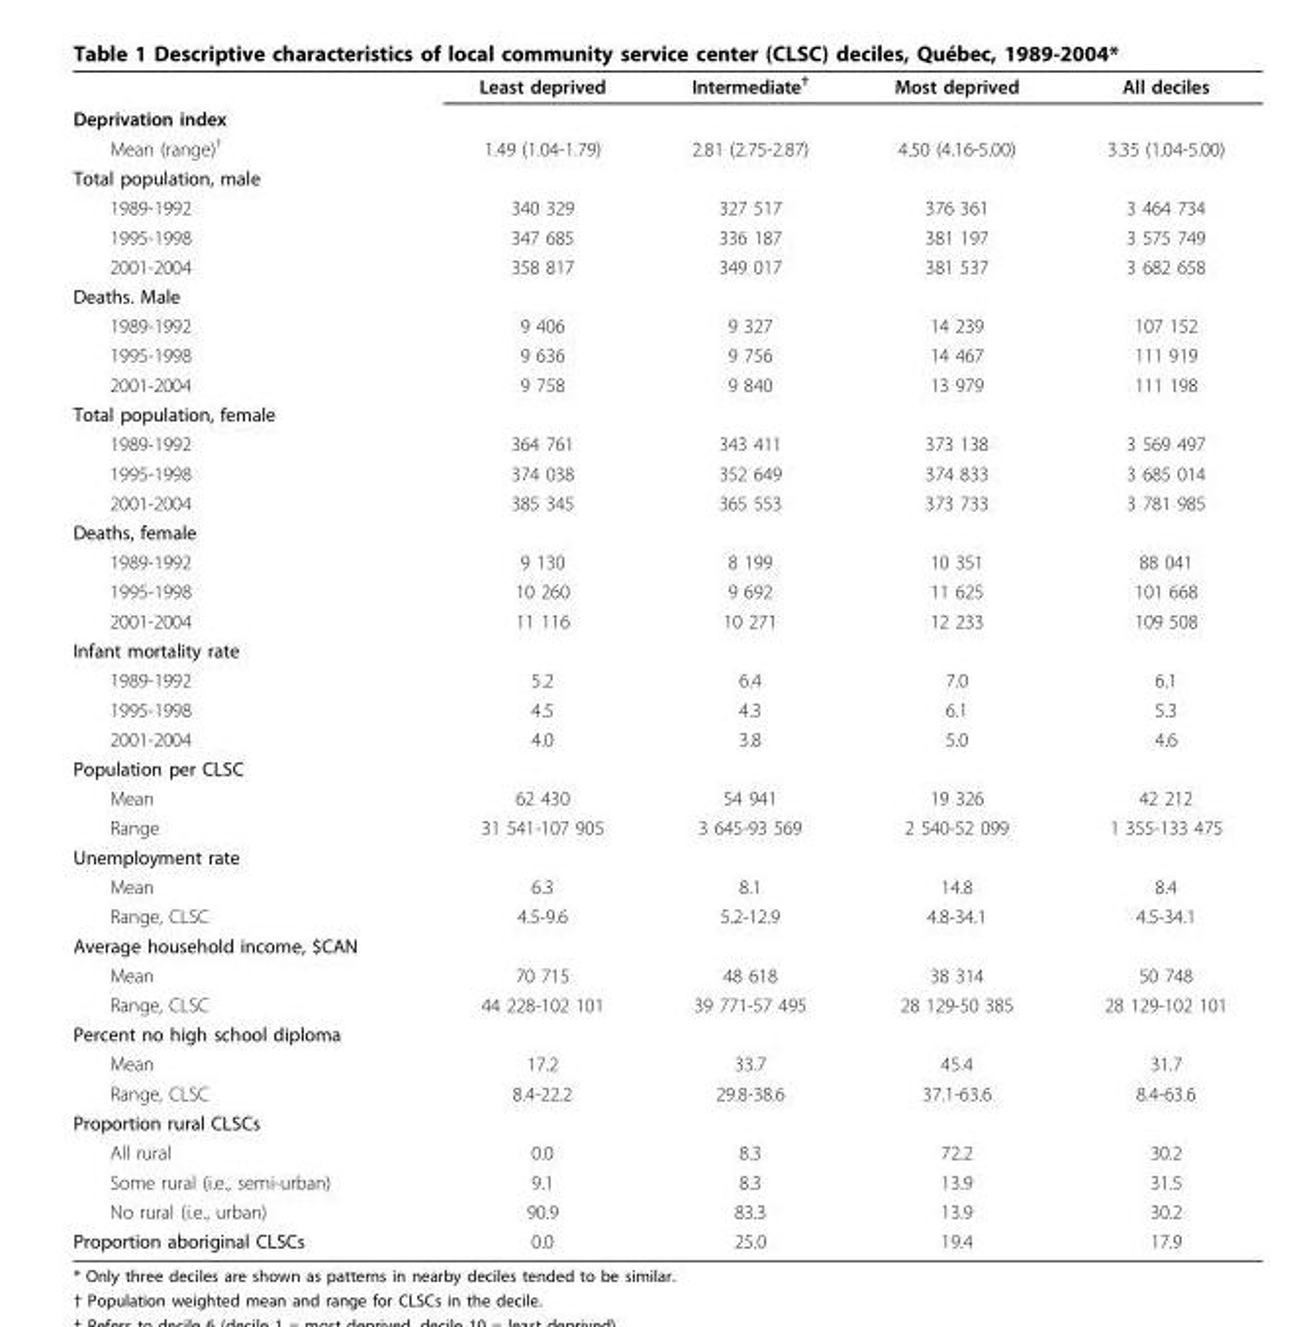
<table><thead><tr><td></td><td>Least deprived</td><td>Intermediate<sup>†</sup></td><td>Most deprived</td><td>All deciles</td></tr></thead><tbody><tr><td colspan="5">Deprivation index</td></tr><tr><td>Mean (range)<sup>†</sup></td><td>1.49 (1.04-1.79)</td><td>2.81 (2.75-2.87)</td><td>4.50 (4.16-5.00)</td><td>3.35 (1.04-5.00)</td></tr><tr><td colspan="5">Total population, male</td></tr><tr><td>1989-1992</td><td>340 329</td><td>327 517</td><td>376 361</td><td>3 464 734</td></tr><tr><td>1995-1998</td><td>347 685</td><td>336 187</td><td>381 197</td><td>3 575 749</td></tr><tr><td>2001-2004</td><td>358 817</td><td>349 017</td><td>381 537</td><td>3 682 658</td></tr><tr><td colspan="5">Deaths. Male</td></tr><tr><td>1989-1992</td><td>9 406</td><td>9 327</td><td>14 239</td><td>107 152</td></tr><tr><td>1995-1998</td><td>9 636</td><td>9 756</td><td>14 467</td><td>111 919</td></tr><tr><td>2001-2004</td><td>9 758</td><td>9 840</td><td>13 979</td><td>111 198</td></tr><tr><td colspan="5">Total population, female</td></tr><tr><td>1989-1992</td><td>364 761</td><td>343 411</td><td>373 138</td><td>3 569 497</td></tr><tr><td>1995-1998</td><td>374 038</td><td>352 649</td><td>374 833</td><td>3 685 014</td></tr><tr><td>2001-2004</td><td>385 345</td><td>365 553</td><td>373 733</td><td>3 781 985</td></tr><tr><td colspan="5">Deaths, female</td></tr><tr><td>1989-1992</td><td>9 130</td><td>8 199</td><td>10 351</td><td>88 041</td></tr><tr><td>1995-1998</td><td>10 260</td><td>9 692</td><td>11 625</td><td>101 668</td></tr><tr><td>2001-2004</td><td>11 116</td><td>10 271</td><td>12 233</td><td>109 508</td></tr><tr><td colspan="5">Infant mortality rate</td></tr><tr><td>1989-1992</td><td>5.2</td><td>6.4</td><td>7.0</td><td>6.1</td></tr><tr><td>1995-1998</td><td>4.5</td><td>4.3</td><td>6.1</td><td>5.3</td></tr><tr><td>2001-2004</td><td>4.0</td><td>3.8</td><td>5.0</td><td>4.6</td></tr><tr><td colspan="5">Population per CLSC</td></tr><tr><td>Mean</td><td>62 430</td><td>54 941</td><td>19 326</td><td>42 212</td></tr><tr><td>Range</td><td>31 541-107 905</td><td>3 645-93 569</td><td>2 540-52 099</td><td>1 355-133 475</td></tr><tr><td colspan="5">Unemployment rate</td></tr><tr><td>Mean</td><td>6.3</td><td>8.1</td><td>14.8</td><td>8.4</td></tr><tr><td>Range, CLSC</td><td>4.5-9.6</td><td>5.2-12.9</td><td>4.8-34.1</td><td>4.5-34.1</td></tr><tr><td colspan="5">Average household income, $CAN</td></tr><tr><td>Mean</td><td>70 715</td><td>48 618</td><td>38 314</td><td>50 748</td></tr><tr><td>Range, CLSC</td><td>44 228-102 101</td><td>39 771-57 495</td><td>28 129-50 385</td><td>28 129-102 101</td></tr><tr><td colspan="5">Percent no high school diploma</td></tr><tr><td>Mean</td><td>17.2</td><td>33.7</td><td>45.4</td><td>31.7</td></tr><tr><td>Range, CLSC</td><td>8.4-22.2</td><td>29.8-38.6</td><td>37.1-63.6</td><td>8.4-63.6</td></tr><tr><td colspan="5">Proportion rural CLSCs</td></tr><tr><td>All rural</td><td>0.0</td><td>8.3</td><td>72.2</td><td>30.2</td></tr><tr><td>Some rural (i.e., semi-urban)</td><td>9.1</td><td>8.3</td><td>13.9</td><td>31.5</td></tr><tr><td>No rural (i.e., urban)</td><td>90.9</td><td>83.3</td><td>13.9</td><td>30.2</td></tr><tr><td>Proportion aboriginal CLSCs</td><td>0.0</td><td>25.0</td><td>19.4</td><td>17.9</td></tr></tbody></table>